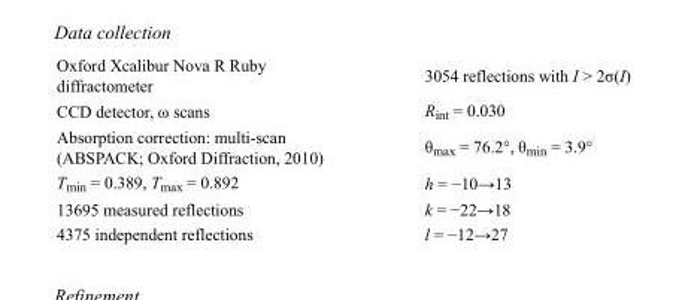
<table><tbody><tr><td>Oxford Xcalibur Nova R Ruby diffractometer</td><td>3054 reflections with I &gt; 2σ(I)</td></tr><tr><td>CCD detector, ω scans</td><td>R<sub>int</sub> = 0.030</td></tr><tr><td>Absorption correction: multi-scan (ABSPACK; Oxford Diffraction, 2010)</td><td>θ<sub>max</sub> = 76.2°, θ<sub>min</sub> = 3.9°</td></tr><tr><td>T<sub>min</sub> = 0.389, T<sub>max</sub> = 0.892</td><td>h = −10→13</td></tr><tr><td>13695 measured reflections</td><td>k = −22→18</td></tr><tr><td>4375 independent reflections</td><td>l = −12→27</td></tr></tbody></table>